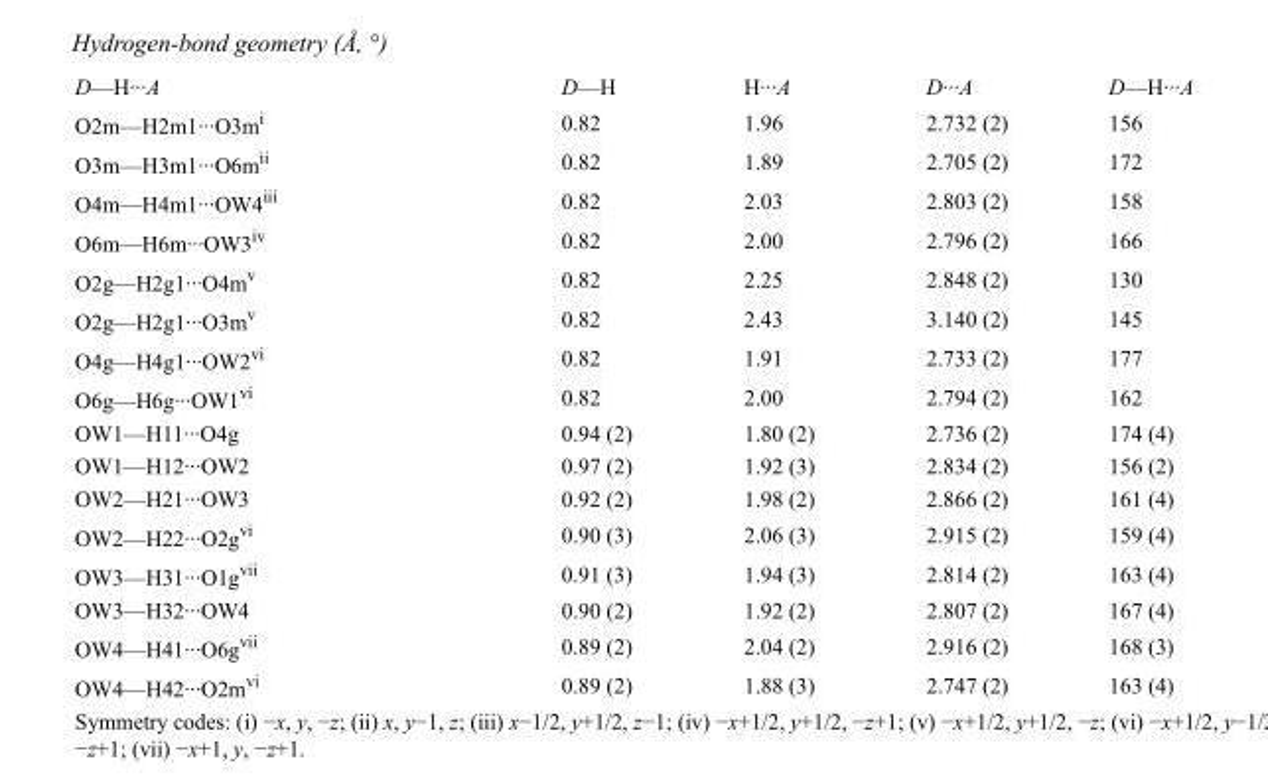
<table><tbody><tr><td>D—H···A</td><td>D—H</td><td>H···A</td><td>D···A</td><td>D—H···A</td></tr><tr><td>O2m—H2m1···O3m<sup>i</sup></td><td>0.82</td><td>1.96</td><td>2.732 (2)</td><td>156</td></tr><tr><td>O3m—H3m1···O6m<sup>ii</sup></td><td>0.82</td><td>1.89</td><td>2.705 (2)</td><td>172</td></tr><tr><td>O4m—H4m1···OW4<sup>iii</sup></td><td>0.82</td><td>2.03</td><td>2.803 (2)</td><td>158</td></tr><tr><td>O6m—H6m···OW3<sup>iv</sup></td><td>0.82</td><td>2.00</td><td>2.796 (2)</td><td>166</td></tr><tr><td>O2g—H2g1···O4m<sup>v</sup></td><td>0.82</td><td>2.25</td><td>2.848 (2)</td><td>130</td></tr><tr><td>O2g—H2g1···O3m<sup>v</sup></td><td>0.82</td><td>2.43</td><td>3.140 (2)</td><td>145</td></tr><tr><td>O4g—H4g1···OW2<sup>vi</sup></td><td>0.82</td><td>1.91</td><td>2.733 (2)</td><td>177</td></tr><tr><td>O6g—H6g···OW1<sup>vi</sup></td><td>0.82</td><td>2.00</td><td>2.794 (2)</td><td>162</td></tr><tr><td>OW1—H11···O4g</td><td>0.94 (2)</td><td>1.80 (2)</td><td>2.736 (2)</td><td>174 (4)</td></tr><tr><td>OW1—H12···OW2</td><td>0.97 (2)</td><td>1.92 (3)</td><td>2.834 (2)</td><td>156 (2)</td></tr><tr><td>OW2—H21···OW3</td><td>0.92 (2)</td><td>1.98 (2)</td><td>2.866 (2)</td><td>161 (4)</td></tr><tr><td>OW2—H22···O2g<sup>vi</sup></td><td>0.90 (3)</td><td>2.06 (3)</td><td>2.915 (2)</td><td>159 (4)</td></tr><tr><td>OW3—H31···O1g<sup>vii</sup></td><td>0.91 (3)</td><td>1.94 (3)</td><td>2.814 (2)</td><td>163 (4)</td></tr><tr><td>OW3—H32···OW4</td><td>0.90 (2)</td><td>1.92 (2)</td><td>2.807 (2)</td><td>167 (4)</td></tr><tr><td>OW4—H41···O6g<sup>vii</sup></td><td>0.89 (2)</td><td>2.04 (2)</td><td>2.916 (2)</td><td>168 (3)</td></tr><tr><td>OW4—H42···O2m<sup>vi</sup></td><td>0.89 (2)</td><td>1.88 (3)</td><td>2.747 (2)</td><td>163 (4)</td></tr></tbody></table>